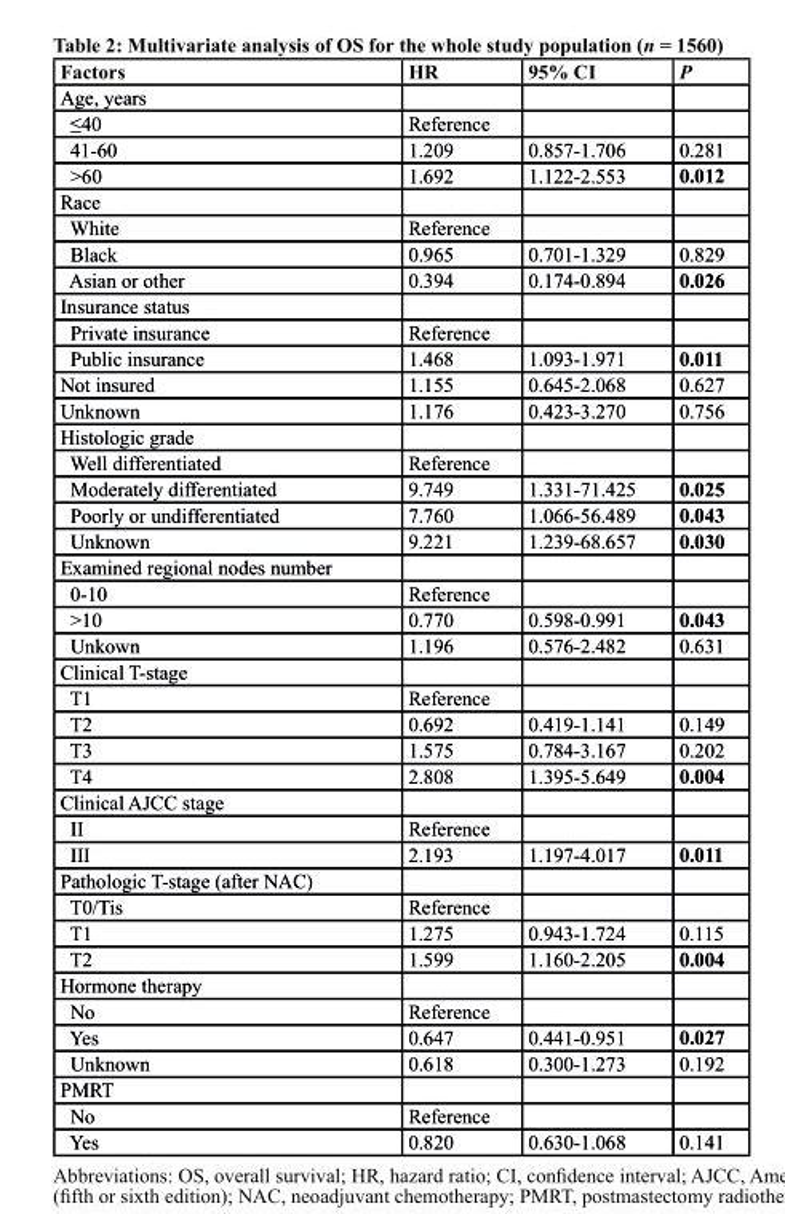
<table><thead><tr><td>Factors</td><td>hr</td><td>95% cI</td><td>P</td></tr></thead><tbody><tr><td colspan="4">Age, years</td></tr><tr><td>≤40</td><td>Reference</td><td></td><td></td></tr><tr><td>41-60</td><td>1.209</td><td>0.857-1.706</td><td>0.281</td></tr><tr><td>&gt;60</td><td>1.692</td><td>1.122-2.553</td><td>0.012</td></tr><tr><td colspan="4">Race</td></tr><tr><td>White</td><td>Reference</td><td></td><td></td></tr><tr><td>Black</td><td>0.965</td><td>0.701-1.329</td><td>0.829</td></tr><tr><td>Asian or other</td><td>0.394</td><td>0.174-0.894</td><td>0.026</td></tr><tr><td colspan="4">Insurance status</td></tr><tr><td>Private insurance</td><td>Reference</td><td></td><td></td></tr><tr><td>Public insurance</td><td>1.468</td><td>1.093-1.971</td><td>0.011</td></tr><tr><td>Not insured</td><td>1.155</td><td>0.645-2.068</td><td>0.627</td></tr><tr><td>Unknown</td><td>1.176</td><td>0.423-3.270</td><td>0.756</td></tr><tr><td colspan="4">Histologic grade</td></tr><tr><td>Well differentiated</td><td>Reference</td><td></td><td></td></tr><tr><td>Moderately differentiated</td><td>9.749</td><td>1.331-71.425</td><td>0.025</td></tr><tr><td>Poorly or undifferentiated</td><td>7.760</td><td>1.066-56.489</td><td>0.043</td></tr><tr><td>Unknown</td><td>9.221</td><td>1.239-68.657</td><td>0.030</td></tr><tr><td colspan="4">Examined regional nodes number</td></tr><tr><td>0-10</td><td>Reference</td><td></td><td></td></tr><tr><td>&gt;10</td><td>0.770</td><td>0.598-0.991</td><td>0.043</td></tr><tr><td>Unkown</td><td>1.196</td><td>0.576-2.482</td><td>0.631</td></tr><tr><td colspan="4">Clinical T-stage</td></tr><tr><td>T1</td><td>Reference</td><td></td><td></td></tr><tr><td>T2</td><td>0.692</td><td>0.419-1.141</td><td>0.149</td></tr><tr><td>T3</td><td>1.575</td><td>0.784-3.167</td><td>0.202</td></tr><tr><td>T4</td><td>2.808</td><td>1.395-5.649</td><td>0.004</td></tr><tr><td colspan="4">Clinical AJCC stage</td></tr><tr><td>II</td><td>Reference</td><td></td><td></td></tr><tr><td>III</td><td>2.193</td><td>1.197-4.017</td><td>0.011</td></tr><tr><td colspan="4">Pathologic T-stage (after NAC)</td></tr><tr><td>T0/Tis</td><td>Reference</td><td></td><td></td></tr><tr><td>T1</td><td>1.275</td><td>0.943-1.724</td><td>0.115</td></tr><tr><td>T2</td><td>1.599</td><td>1.160-2.205</td><td>0.004</td></tr><tr><td colspan="4">Hormone therapy</td></tr><tr><td>No</td><td>Reference</td><td></td><td></td></tr><tr><td>Yes</td><td>0.647</td><td>0.441-0.951</td><td>0.027</td></tr><tr><td>Unknown</td><td>0.618</td><td>0.300-1.273</td><td>0.192</td></tr><tr><td colspan="4">PMRT</td></tr><tr><td>No</td><td>Reference</td><td></td><td></td></tr><tr><td>Yes</td><td>0.820</td><td>0.630-1.068</td><td>0.141</td></tr></tbody></table>